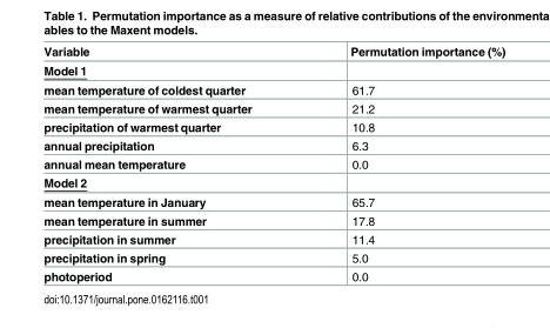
<table><thead><tr><td>Variable</td><td>Permutation importance (%)</td></tr></thead><tbody><tr><td colspan="2">Model 1</td></tr><tr><td>mean temperature of coldest quarter</td><td>61.7</td></tr><tr><td>mean temperature of warmest quarter</td><td>21.2</td></tr><tr><td>precipitation of warmest quarter</td><td>10.8</td></tr><tr><td>annual precipitation</td><td>6.3</td></tr><tr><td>annual mean temperature</td><td>0.0</td></tr><tr><td colspan="2">Model 2</td></tr><tr><td>mean temperature in January</td><td>65.7</td></tr><tr><td>mean temperature in summer</td><td>17.8</td></tr><tr><td>precipitation in summer</td><td>11.4</td></tr><tr><td>precipitation in spring</td><td>5.0</td></tr><tr><td>photoperiod</td><td>0.0</td></tr></tbody></table>